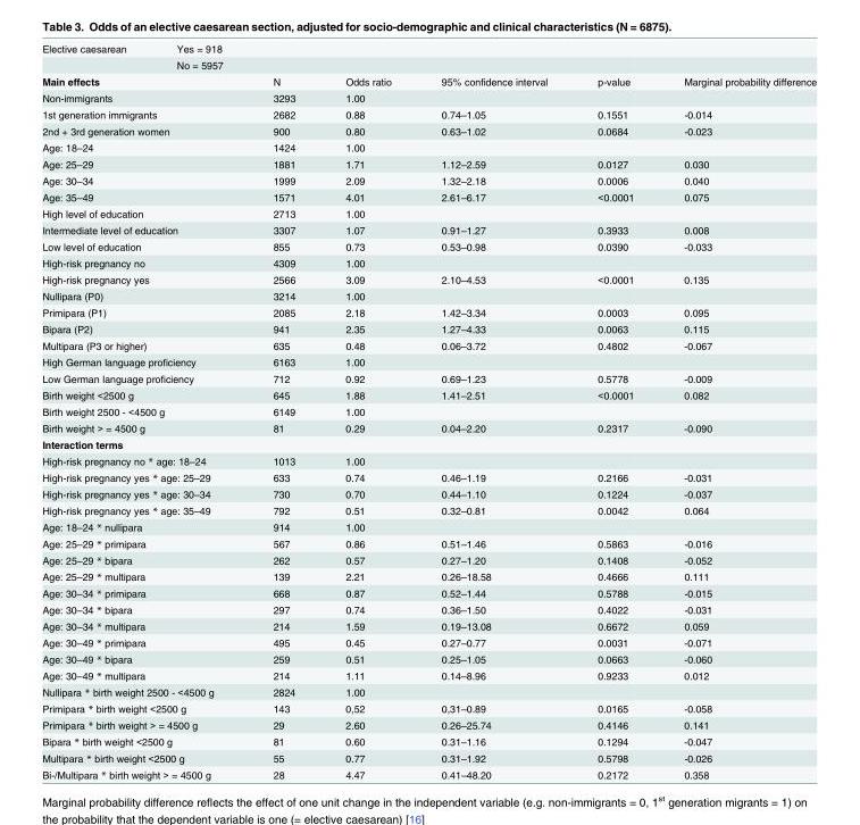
<table><tbody><tr><td rowspan="2">Elective caesarean</td><td>Yes = 918</td><td></td><td></td><td></td><td></td><td></td></tr><tr><td>No = 5957</td><td></td><td></td><td></td><td></td><td></td></tr><tr><td colspan="2">Main effects</td><td>N</td><td>Odds ratio</td><td>95% confidence interval</td><td>p-value</td><td>Marginal probability difference</td></tr><tr><td colspan="2">Non-immigrants</td><td>3293</td><td>1.00</td><td></td><td></td><td></td></tr><tr><td colspan="2">1st generation immigrants</td><td>2682</td><td>0.88</td><td>0.74–1.05</td><td>0.1551</td><td>-0.014</td></tr><tr><td colspan="2">2nd + 3rd generation women</td><td>900</td><td>0.80</td><td>0.63–1.02</td><td>0.0684</td><td>-0.023</td></tr><tr><td colspan="2">Age: 18–24</td><td>1424</td><td>1.00</td><td></td><td></td><td></td></tr><tr><td colspan="2">Age: 25–29</td><td>1881</td><td>1.71</td><td>1.12–2.59</td><td>0.0127</td><td>0.030</td></tr><tr><td colspan="2">Age: 30–34</td><td>1999</td><td>2.09</td><td>1.32–2.18</td><td>0.0006</td><td>0.040</td></tr><tr><td colspan="2">Age: 35–49</td><td>1571</td><td>4.01</td><td>2.61–6.17</td><td>&lt;0.0001</td><td>0.075</td></tr><tr><td colspan="2">High level of education</td><td>2713</td><td>1.00</td><td></td><td></td><td></td></tr><tr><td colspan="2">Intermediate level of education</td><td>3307</td><td>1.07</td><td>0.91–1.27</td><td>0.3933</td><td>0.008</td></tr><tr><td colspan="2">Low level of education</td><td>855</td><td>0.73</td><td>0.53–0.98</td><td>0.0390</td><td>-0.033</td></tr><tr><td colspan="2">High-risk pregnancy no</td><td>4309</td><td>1.00</td><td></td><td></td><td></td></tr><tr><td colspan="2">High-risk pregnancy yes</td><td>2566</td><td>3.09</td><td>2.10–4.53</td><td>&lt;0.0001</td><td>0.135</td></tr><tr><td colspan="2">Nullipara (P0)</td><td>3214</td><td>1.00</td><td></td><td></td><td></td></tr><tr><td colspan="2">Primipara (P1)</td><td>2085</td><td>2.18</td><td>1.42–3.34</td><td>0.0003</td><td>0.095</td></tr><tr><td colspan="2">Bipara (P2)</td><td>941</td><td>2.35</td><td>1.27–4.33</td><td>0.0063</td><td>0.115</td></tr><tr><td colspan="2">Multipara (P3 or higher)</td><td>635</td><td>0.48</td><td>0.06–3.72</td><td>0.4802</td><td>-0.067</td></tr><tr><td colspan="2">High German language proficiency</td><td>6163</td><td>1.00</td><td></td><td></td><td></td></tr><tr><td colspan="2">Low German language proficiency</td><td>712</td><td>0.92</td><td>0.69–1.23</td><td>0.5778</td><td>-0.009</td></tr><tr><td colspan="2">Birth weight &lt;2500 g</td><td>645</td><td>1.88</td><td>1.41–2.51</td><td>&lt;0.0001</td><td>0.082</td></tr><tr><td colspan="2">Birth weight 2500 - &lt;4500 g</td><td>6149</td><td>1.00</td><td></td><td></td><td></td></tr><tr><td colspan="2">Birth weight &gt; = 4500 g</td><td>81</td><td>0.29</td><td>0.04–2.20</td><td>0.2317</td><td>-0.090</td></tr><tr><td colspan="7">Interaction terms</td></tr><tr><td colspan="2">High-risk pregnancy no * age: 18–24</td><td>1013</td><td>1.00</td><td></td><td></td><td></td></tr><tr><td colspan="2">High-risk pregnancy yes * age: 25–29</td><td>633</td><td>0.74</td><td>0.46–1.19</td><td>0.2166</td><td>-0.031</td></tr><tr><td colspan="2">High-risk pregnancy yes * age: 30–34</td><td>730</td><td>0.70</td><td>0.44–1.10</td><td>0.1224</td><td>-0.037</td></tr><tr><td colspan="2">High-risk pregnancy yes * age: 35–49</td><td>792</td><td>0.51</td><td>0.32–0.81</td><td>0.0042</td><td>0.064</td></tr><tr><td colspan="2">Age: 18–24 * nullipara</td><td>914</td><td>1.00</td><td></td><td></td><td></td></tr><tr><td colspan="2">Age: 25–29 * primipara</td><td>567</td><td>0.86</td><td>0.51–1.46</td><td>0.5863</td><td>-0.016</td></tr><tr><td colspan="2">Age: 25–29 * bipara</td><td>262</td><td>0.57</td><td>0.27–1.20</td><td>0.1408</td><td>-0.052</td></tr><tr><td colspan="2">Age: 25–29 * multipara</td><td>139</td><td>2.21</td><td>0.26–18.58</td><td>0.4666</td><td>0.111</td></tr><tr><td colspan="2">Age: 30–34 * primipara</td><td>668</td><td>0.87</td><td>0.52–1.44</td><td>0.5788</td><td>-0.015</td></tr><tr><td colspan="2">Age: 30–34 * bipara</td><td>297</td><td>0.74</td><td>0.36–1.50</td><td>0.4022</td><td>-0.031</td></tr><tr><td colspan="2">Age: 30–34 * multipara</td><td>214</td><td>1.59</td><td>0.19–13.08</td><td>0.6672</td><td>0.059</td></tr><tr><td colspan="2">Age: 30–49 * primipara</td><td>495</td><td>0.45</td><td>0.27–0.77</td><td>0.0031</td><td>-0.071</td></tr><tr><td colspan="2">Age: 30–49 * bipara</td><td>259</td><td>0.51</td><td>0.25–1.05</td><td>0.0663</td><td>-0.060</td></tr><tr><td colspan="2">Age: 30–49 * multipara</td><td>214</td><td>1.11</td><td>0.14–8.96</td><td>0.9233</td><td>0.012</td></tr><tr><td colspan="2">Nullipara * birth weight 2500 - &lt;4500 g</td><td>2824</td><td>1.00</td><td></td><td></td><td></td></tr><tr><td colspan="2">Primipara * birth weight &lt;2500 g</td><td>143</td><td>0,52</td><td>0,31–0.89</td><td>0.0165</td><td>-0.058</td></tr><tr><td colspan="2">Primipara * birth weight &gt; = 4500 g</td><td>29</td><td>2.60</td><td>0.26–25.74</td><td>0.4146</td><td>0.141</td></tr><tr><td colspan="2">Bipara * birth weight &lt;2500 g</td><td>81</td><td>0.60</td><td>0.31–1.16</td><td>0.1294</td><td>-0.047</td></tr><tr><td colspan="2">Multipara * birth weight &lt;2500 g</td><td>55</td><td>0.77</td><td>0.31–1.92</td><td>0.5798</td><td>-0.026</td></tr><tr><td colspan="2">Bi-/Multipara * birth weight &gt; = 4500 g</td><td>28</td><td>4.47</td><td>0.41–48.20</td><td>0.2172</td><td>0.358</td></tr></tbody></table>